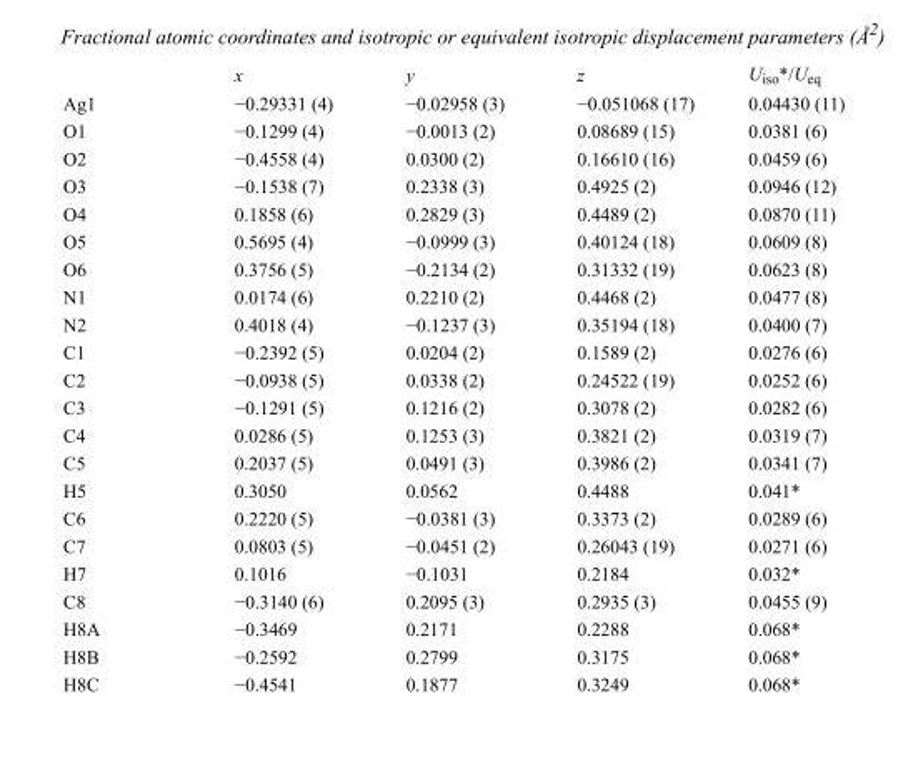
<table><thead><tr><td></td><td>x</td><td>y</td><td>z</td><td>U<sub>iso</sub>*/U<sub>eq</sub></td></tr></thead><tbody><tr><td>Ag1</td><td>−0.29331 (4)</td><td>−0.02958 (3)</td><td>−0.051068 (17)</td><td>0.04430 (11)</td></tr><tr><td>O1</td><td>−0.1299 (4)</td><td>−0.0013 (2)</td><td>0.08689 (15)</td><td>0.0381 (6)</td></tr><tr><td>O2</td><td>−0.4558 (4)</td><td>0.0300 (2)</td><td>0.16610 (16)</td><td>0.0459 (6)</td></tr><tr><td>O3</td><td>−0.1538 (7)</td><td>0.2338 (3)</td><td>0.4925 (2)</td><td>0.0946 (12)</td></tr><tr><td>O4</td><td>0.1858 (6)</td><td>0.2829 (3)</td><td>0.4489 (2)</td><td>0.0870 (11)</td></tr><tr><td>O5</td><td>0.5695 (4)</td><td>−0.0999 (3)</td><td>0.40124 (18)</td><td>0.0609 (8)</td></tr><tr><td>O6</td><td>0.3756 (5)</td><td>−0.2134 (2)</td><td>0.31332 (19)</td><td>0.0623 (8)</td></tr><tr><td>N1</td><td>0.0174 (6)</td><td>0.2210 (2)</td><td>0.4468 (2)</td><td>0.0477 (8)</td></tr><tr><td>N2</td><td>0.4018 (4)</td><td>−0.1237 (3)</td><td>0.35194 (18)</td><td>0.0400 (7)</td></tr><tr><td>C1</td><td>−0.2392 (5)</td><td>0.0204 (2)</td><td>0.1589 (2)</td><td>0.0276 (6)</td></tr><tr><td>C2</td><td>−0.0938 (5)</td><td>0.0338 (2)</td><td>0.24522 (19)</td><td>0.0252 (6)</td></tr><tr><td>C3</td><td>−0.1291 (5)</td><td>0.1216 (2)</td><td>0.3078 (2)</td><td>0.0282 (6)</td></tr><tr><td>C4</td><td>0.0286 (5)</td><td>0.1253 (3)</td><td>0.3821 (2)</td><td>0.0319 (7)</td></tr><tr><td>C5</td><td>0.2037 (5)</td><td>0.0491 (3)</td><td>0.3986 (2)</td><td>0.0341 (7)</td></tr><tr><td>H5</td><td>0.3050</td><td>0.0562</td><td>0.4488</td><td>0.041*</td></tr><tr><td>C6</td><td>0.2220 (5)</td><td>−0.0381 (3)</td><td>0.3373 (2)</td><td>0.0289 (6)</td></tr><tr><td>C7</td><td>0.0803 (5)</td><td>−0.0451 (2)</td><td>0.26043 (19)</td><td>0.0271 (6)</td></tr><tr><td>H7</td><td>0.1016</td><td>−0.1031</td><td>0.2184</td><td>0.032*</td></tr><tr><td>C8</td><td>−0.3140 (6)</td><td>0.2095 (3)</td><td>0.2935 (3)</td><td>0.0455 (9)</td></tr><tr><td>H8A</td><td>−0.3469</td><td>0.2171</td><td>0.2288</td><td>0.068*</td></tr><tr><td>H8B</td><td>−0.2592</td><td>0.2799</td><td>0.3175</td><td>0.068*</td></tr><tr><td>H8C</td><td>−0.4541</td><td>0.1877</td><td>0.3249</td><td>0.068*</td></tr></tbody></table>